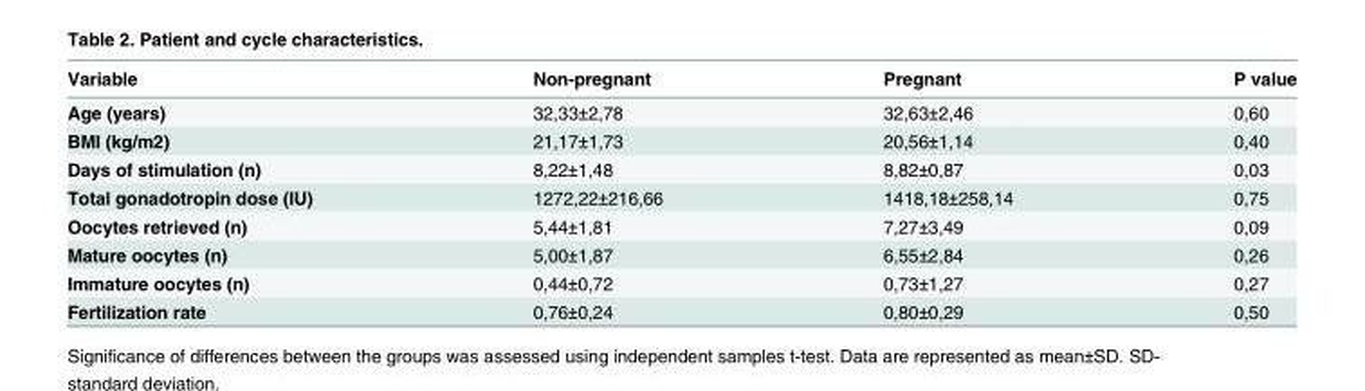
<table><thead><tr><td>Variable</td><td>Non-pregnant</td><td>Pregnant</td><td>P value</td></tr></thead><tbody><tr><td>Age (years)</td><td>32,33±2,78</td><td>32,63±2,46</td><td>0,60</td></tr><tr><td>BMI (kg/m2)</td><td>21,17±1,73</td><td>20,56±1,14</td><td>0,40</td></tr><tr><td>Days of stimulation (n)</td><td>8,22±1,48</td><td>8,82±0,87</td><td>0,03</td></tr><tr><td>Total gonadotropin dose (IU)</td><td>1272,22±216,66</td><td>1418,18±258,14</td><td>0,75</td></tr><tr><td>Oocytes retrieved (n)</td><td>5,44±1,81</td><td>7,27±3,49</td><td>0,09</td></tr><tr><td>Mature oocytes (n)</td><td>5,00±1,87</td><td>6,55±2,84</td><td>0,26</td></tr><tr><td>Immature oocytes (n)</td><td>0,44±0,72</td><td>0,73±1,27</td><td>0,27</td></tr><tr><td>Fertilization rate</td><td>0,76±0,24</td><td>0,80±0,29</td><td>0,50</td></tr></tbody></table>